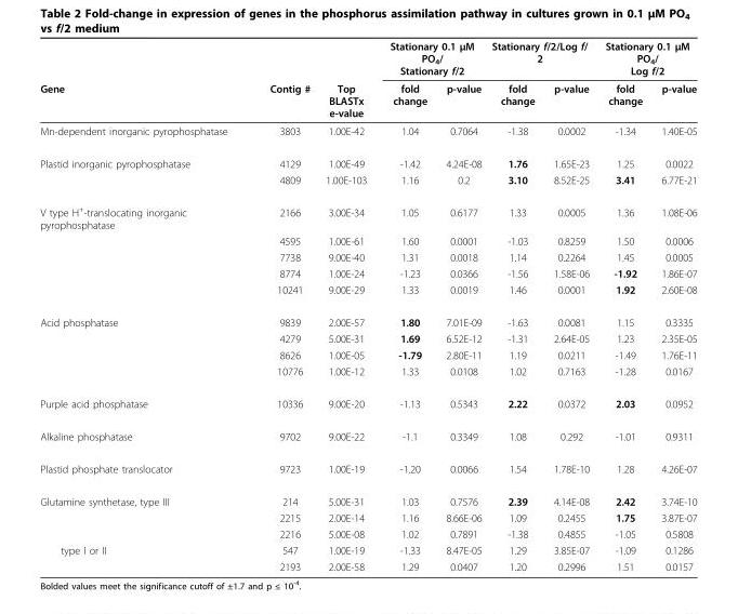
<table><thead><tr><td rowspan="2">Gene</td><td rowspan="2">Contig #</td><td rowspan="2">Top BLASTx e-value</td><td colspan="2">Stationary 0.1 μM PO<sub>4</sub>/ Stationary f/2</td><td colspan="2">Stationary f/2/Log f/ 2</td><td colspan="2">Stationary 0.1 μM PO<sub>4</sub>/ Log f/2</td></tr><tr><td>fold change</td><td>p-value</td><td>fold change</td><td>p-value</td><td>fold change</td><td>p-value</td></tr></thead><tbody><tr><td>Mn-dependent inorganic pyrophosphatase</td><td>3803</td><td>1.00E-42</td><td>1.04</td><td>0.7064</td><td>-1.38</td><td>0.0002</td><td>-1.34</td><td>1.40E-05</td></tr><tr><td rowspan="2">Plastid inorganic pyrophosphatase</td><td>4129</td><td>1.00E-49</td><td>-1.42</td><td>4.24E-08</td><td>1.76</td><td>1.65E-23</td><td>1.25</td><td>0.0022</td></tr><tr><td>4809</td><td>1.00E-103</td><td>1.16</td><td>0.2</td><td>3.10</td><td>8.52E-25</td><td>3.41</td><td>6.77E-21</td></tr><tr><td rowspan="5">V type H<sup>+</sup>-translocating inorganic pyrophosphatase</td><td>2166</td><td>3.00E-34</td><td>1.05</td><td>0.6177</td><td>1.33</td><td>0.0005</td><td>1.36</td><td>1.08E-06</td></tr><tr><td>4595</td><td>1.00E-61</td><td>1.60</td><td>0.0001</td><td>-1.03</td><td>0.8259</td><td>1.50</td><td>0.0006</td></tr><tr><td>7738</td><td>9.00E-40</td><td>1.31</td><td>0.0018</td><td>1.14</td><td>0.2264</td><td>1.45</td><td>0.0005</td></tr><tr><td>8774</td><td>1.00E-24</td><td>-1.23</td><td>0.0366</td><td>-1.56</td><td>1.58E-06</td><td>-1.92</td><td>1.86E-07</td></tr><tr><td>10241</td><td>9.00E-29</td><td>1.33</td><td>0.0019</td><td>1.46</td><td>0.0001</td><td>1.92</td><td>2.60E-08</td></tr><tr><td rowspan="4">Acid phosphatase</td><td>9839</td><td>2.00E-57</td><td>1.80</td><td>7.01E-09</td><td>-1.63</td><td>0.0081</td><td>1.15</td><td>0.3335</td></tr><tr><td>4279</td><td>5.00E-31</td><td>1.69</td><td>6.52E-12</td><td>-1.31</td><td>2.64E-05</td><td>1.23</td><td>2.35E-05</td></tr><tr><td>8626</td><td>1.00E-05</td><td>-1.79</td><td>2.80E-11</td><td>1.19</td><td>0.0211</td><td>-1.49</td><td>1.76E-11</td></tr><tr><td>10776</td><td>1.00E-12</td><td>1.33</td><td>0.0108</td><td>1.02</td><td>0.7163</td><td>-1.28</td><td>0.0167</td></tr><tr><td>Purple acid phosphatase</td><td>10336</td><td>9.00E-20</td><td>-1.13</td><td>0.5343</td><td>2.22</td><td>0.0372</td><td>2.03</td><td>0.0952</td></tr><tr><td>Alkaline phosphatase</td><td>9702</td><td>9.00E-22</td><td>-1.1</td><td>0.3349</td><td>1.08</td><td>0.292</td><td>-1.01</td><td>0.9311</td></tr><tr><td>Plastid phosphate translocator</td><td>9723</td><td>1.00E-19</td><td>-1.20</td><td>0.0066</td><td>1.54</td><td>1.78E-10</td><td>1.28</td><td>4.26E-07</td></tr><tr><td rowspan="3">Glutamine synthetase, type III</td><td>214</td><td>5.00E-31</td><td>1.03</td><td>0.7576</td><td>2.39</td><td>4.14E-08</td><td>2.42</td><td>3.74E-10</td></tr><tr><td>2215</td><td>2.00E-14</td><td>1.16</td><td>8.66E-06</td><td>1.09</td><td>0.2455</td><td>1.75</td><td>3.87E-07</td></tr><tr><td>2216</td><td>5.00E-08</td><td>1.02</td><td>0.7891</td><td>-1.38</td><td>0.4855</td><td>-1.05</td><td>0.5808</td></tr><tr><td rowspan="2">type I or II</td><td>547</td><td>1.00E-19</td><td>-1.33</td><td>8.47E-05</td><td>1.29</td><td>3.85E-07</td><td>-1.09</td><td>0.1286</td></tr><tr><td>2193</td><td>2.00E-58</td><td>1.29</td><td>0.0407</td><td>1.20</td><td>0.2996</td><td>1.51</td><td>0.0157</td></tr></tbody></table>